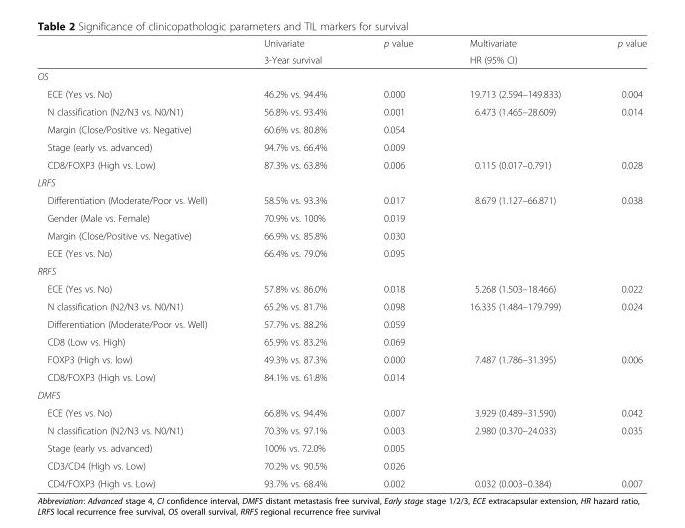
<table><thead><tr><td rowspan="2"></td><td rowspan="2">Univariate 3-Year survival</td><td rowspan="2">p value</td><td rowspan="2">Multivariate HR (95% CI)</td><td rowspan="2">p value</td></tr><tr></tr></thead><tbody><tr><td colspan="5">OS</td></tr><tr><td>ECE (Yes vs. No)</td><td>46.2% vs. 94.4%</td><td>0.000</td><td>19.713 (2.594–149.833)</td><td>0.004</td></tr><tr><td>N classification (N2/N3 vs. N0/N1)</td><td>56.8% vs. 93.4%</td><td>0.001</td><td>6.473 (1.465–28.609)</td><td>0.014</td></tr><tr><td>Margin (Close/Positive vs. Negative)</td><td>60.6% vs. 80.8%</td><td>0.054</td><td></td><td></td></tr><tr><td>Stage (early vs. advanced)</td><td>94.7% vs. 66.4%</td><td>0.009</td><td></td><td></td></tr><tr><td>CD8/FOXP3 (High vs. Low)</td><td>87.3% vs. 63.8%</td><td>0.006</td><td>0.115 (0.017–0.791)</td><td>0.028</td></tr><tr><td colspan="5">LRFS</td></tr><tr><td>Differentiation (Moderate/Poor vs. Well)</td><td>58.5% vs. 93.3%</td><td>0.017</td><td>8.679 (1.127–66.871)</td><td>0.038</td></tr><tr><td>Gender (Male vs. Female)</td><td>70.9% vs. 100%</td><td>0.019</td><td></td><td></td></tr><tr><td>Margin (Close/Positive vs. Negative)</td><td>66.9% vs. 85.8%</td><td>0.030</td><td></td><td></td></tr><tr><td>ECE (Yes vs. No)</td><td>66.4% vs. 79.0%</td><td>0.095</td><td></td><td></td></tr><tr><td colspan="5">RRFS</td></tr><tr><td>ECE (Yes vs. No)</td><td>57.8% vs. 86.0%</td><td>0.018</td><td>5.268 (1.503–18.466)</td><td>0.022</td></tr><tr><td>N classification (N2/N3 vs. N0/N1)</td><td>65.2% vs. 81.7%</td><td>0.098</td><td>16.335 (1.484–179.799)</td><td>0.024</td></tr><tr><td>Differentiation (Moderate/Poor vs. Well)</td><td>57.7% vs. 88.2%</td><td>0.059</td><td></td><td></td></tr><tr><td>CD8 (Low vs. High)</td><td>65.9% vs. 83.2%</td><td>0.069</td><td></td><td></td></tr><tr><td>FOXP3 (High vs. low)</td><td>49.3% vs. 87.3%</td><td>0.000</td><td>7.487 (1.786–31.395)</td><td>0.006</td></tr><tr><td>CD8/FOXP3 (High vs. Low)</td><td>84.1% vs. 61.8%</td><td>0.014</td><td></td><td></td></tr><tr><td colspan="5">DMFS</td></tr><tr><td>ECE (Yes vs. No)</td><td>66.8% vs. 94.4%</td><td>0.007</td><td>3.929 (0.489–31.590)</td><td>0.042</td></tr><tr><td>N classification (N2/N3 vs. N0/N1)</td><td>70.3% vs. 97.1%</td><td>0.003</td><td>2.980 (0.370–24.033)</td><td>0.035</td></tr><tr><td>Stage (early vs. advanced)</td><td>100% vs. 72.0%</td><td>0.005</td><td></td><td></td></tr><tr><td>CD3/CD4 (High vs. Low)</td><td>70.2% vs. 90.5%</td><td>0.026</td><td></td><td></td></tr><tr><td>CD4/FOXP3 (High vs. Low)</td><td>93.7% vs. 68.4%</td><td>0.002</td><td>0.032 (0.003–0.384)</td><td>0.007</td></tr></tbody></table>